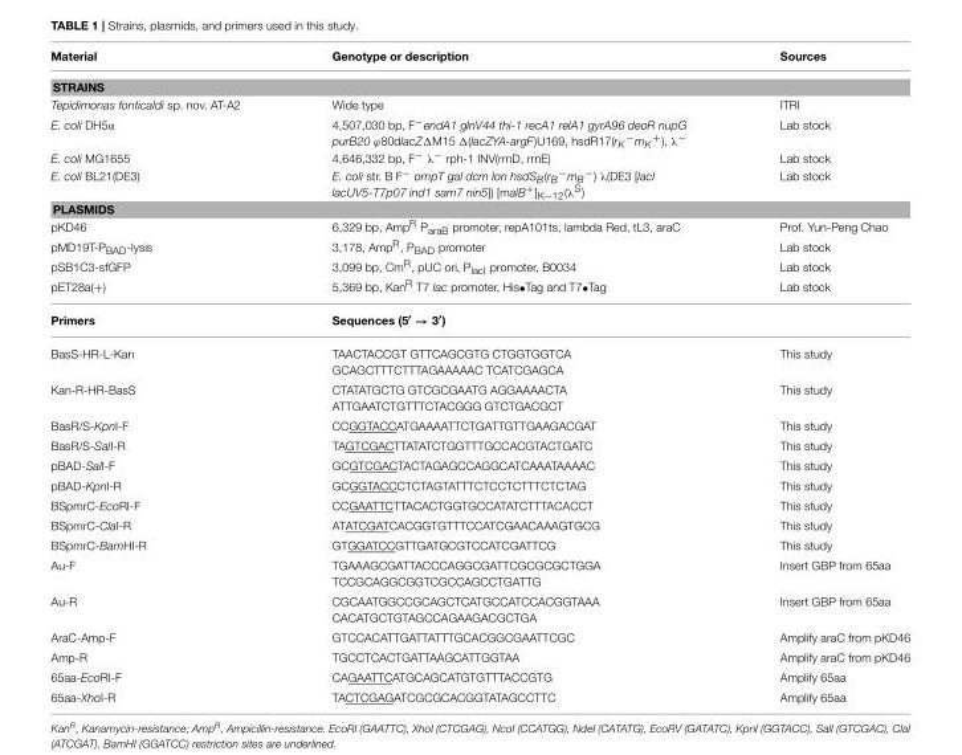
<table><thead><tr><td>Material</td><td>Genotype or description</td><td>Sources</td></tr></thead><tbody><tr><td colspan="3">STRAINS</td></tr><tr><td>Tepidimonas fonticaldi sp. nov. AT-A2</td><td>Wide type</td><td>ITRI</td></tr><tr><td>E. coli DH5α</td><td>4,507,030 bp, F−endA1 glnV44 thi-1 recA1 relA1 gyrA96 deoR nupG purB20 ϕ80dlacZΔM15 Δ(lacZYA-argF)U169, hsdR17(rK−mK+), λ−</td><td>Lab stock</td></tr><tr><td>E. coli MG1655</td><td>4,646,332 bp, F<sup>−</sup> λ<sup>−</sup> rph-1 INV(rrnD, rrnE)</td><td>Lab stock</td></tr><tr><td>E. coli BL21(DE3)</td><td>E. coli str. B F− ompT gal dcm lon hsdSB(rB−mB−) λ(DE3 [lacI lacUV5-T7p07 ind1 sam7 nin5]) [malB+]K−12(λS)</td><td>Lab stock</td></tr><tr><td colspan="3">PLASMIDS</td></tr><tr><td>pKD46</td><td>6,329 bp, Amp<sup>R</sup> P<sub>araB</sub> promoter, repA101ts, lambda Red, tL3, araC</td><td>Prof. Yun-Peng Chao</td></tr><tr><td>pMD19T-P<sub>BAD</sub>-lysis</td><td>3,178, Amp<sup>R</sup>, P<sub>BAD</sub> promoter</td><td>Lab stock</td></tr><tr><td>pSB1C3-sfGFP</td><td>3,099 bp, Cm<sup>R</sup>, pUC ori, P<sub>lacI</sub> promoter, B0034</td><td>Lab stock</td></tr><tr><td>pET28a(+)</td><td>5,369 bp, KanR T7 lac promoter, His•Tag and T7•Tag</td><td>Lab stock</td></tr><tr><td>Primers</td><td>Sequences (5′ → 3′)</td><td></td></tr><tr><td>BasS-HR-L-Kan</td><td>TAACTACCGT GTTCAGCGTG CTGGTGGTCA GCAGCTTTCTTTAGAAAAAC TCATCGAGCA</td><td>This study</td></tr><tr><td>Kan-R-HR-BasS</td><td>CTATATGCTG GTCGCGAATG AGGAAAACTA ATTGAATCTGTTTCTACGGG GTCTGACGCT</td><td>This study</td></tr><tr><td>BasR/S-KpnI-F</td><td>CCGGTACCATGAAAATTCTGATTGTTGAAGACGAT</td><td>This study</td></tr><tr><td>BasR/S-SalI-R</td><td>TAGTCGACTTATATCTGGTTTGCCACGTACTGATC</td><td>This study</td></tr><tr><td>pBAD-SalI-F</td><td>GCGTCGACTACTAGAGCCAGGCATCAAATAAAAC</td><td>This study</td></tr><tr><td>pBAD-KpnI-R</td><td>GCGGTACCCTCTAGTATTTCTCCTCTTTCTCTAG</td><td>This study</td></tr><tr><td>BSpmrC-EcoRI-F</td><td>CCGAATTCTTACACTGGTGCCATATCTTTACACCT</td><td>This study</td></tr><tr><td>BSpmrC-ClaI-R</td><td>ATATCGATCACGGTGTTTCCATCGAACAAAGTGCG</td><td>This study</td></tr><tr><td>BSpmrC-BamHI-R</td><td>GTGGATCCGTTGATGCGTCCATCGATTCG</td><td>This study</td></tr><tr><td>Au-F</td><td>TGAAAGCGATTACCCAGGCGATTCGCGCGCTGGA TCCGCAGGCGGTCGCCAGCCTGATTG</td><td>Insert GBP from 65aa</td></tr><tr><td>Au-R</td><td>CGCAATGGCCGCAGCTCATGCCATCCACGGTAAA CACATGCTGTAGCCAGAAGACGCTGA</td><td>Insert GBP from 65aa</td></tr><tr><td>AraC-Amp-F</td><td>GTCCACATTGATTATTTGCACGGCGAATTCGC</td><td>Amplify araC from pKD46</td></tr><tr><td>Amp-R</td><td>TGCCTCACTGATTAAGCATTGGTAA</td><td>Amplify araC from pKD46</td></tr><tr><td>65aa-EcoRI-F</td><td>CAGAATTCATGCAGCATGTGTTTACCGTG</td><td>Amplify 65aa</td></tr><tr><td>65aa-XhoI-R</td><td>TACTCGAGATCGCGCACGGTATAGCCTTC</td><td>Amplify 65aa</td></tr></tbody></table>